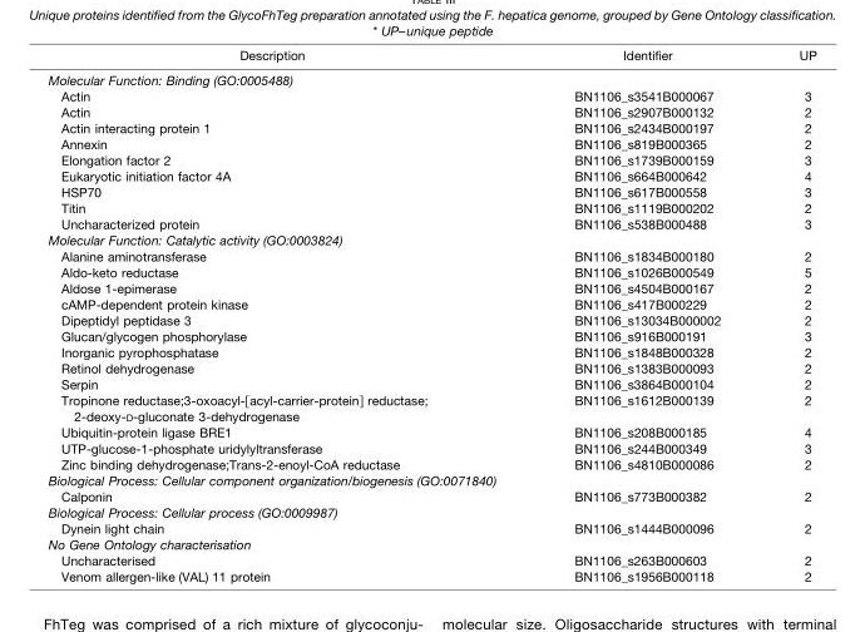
<table><thead><tr><td>Description</td><td>Identifier</td><td>UP</td></tr></thead><tbody><tr><td colspan="3">Molecular Function: Binding (GO:0005488)</td></tr><tr><td>Actin</td><td>BN1106_s3541B000067</td><td>3</td></tr><tr><td>Actin</td><td>BN1106_s2907B000132</td><td>2</td></tr><tr><td>Actin interacting protein 1</td><td>BN1106_s2434B000197</td><td>2</td></tr><tr><td>Annexin</td><td>BN1106_s819B000365</td><td>2</td></tr><tr><td>Elongation factor 2</td><td>BN1106_s1739B000159</td><td>3</td></tr><tr><td>Eukaryotic initiation factor 4A</td><td>BN1106_s664B000642</td><td>4</td></tr><tr><td>HSP70</td><td>BN1106_s617B000558</td><td>3</td></tr><tr><td>Titin</td><td>BN1106_s1119B000202</td><td>2</td></tr><tr><td>Uncharacterized protein</td><td>BN1106_s538B000488</td><td>3</td></tr><tr><td colspan="3">Molecular Function: Catalytic activity (GO:0003824)</td></tr><tr><td>Alanine aminotransferase</td><td>BN1106_s1834B000180</td><td>2</td></tr><tr><td>Aldo-keto reductase</td><td>BN1106_s1026B000549</td><td>5</td></tr><tr><td>Aldose 1-epimerase</td><td>BN1106_s4504B000167</td><td>2</td></tr><tr><td>cAMP-dependent protein kinase</td><td>BN1106_s417B000229</td><td>2</td></tr><tr><td>Dipeptidyl peptidase 3</td><td>BN1106_s13034B000002</td><td>2</td></tr><tr><td>Glucan/glycogen phosphorylase</td><td>BN1106_s916B000191</td><td>3</td></tr><tr><td>Inorganic pyrophosphatase</td><td>BN1106_s1848B000328</td><td>2</td></tr><tr><td>Retinol dehydrogenase</td><td>BN1106_s1383B000093</td><td>2</td></tr><tr><td>Serpin</td><td>BN1106_s3864B000104</td><td>2</td></tr><tr><td>Tropinone reductase;3-oxoacyl-[acyl-carrier-protein] reductase; 2-deoxy-D-gluconate 3-dehydrogenase</td><td>BN1106_s1612B000139</td><td>2</td></tr><tr><td>Ubiquitin-protein ligase BRE1</td><td>BN1106_s208B000185</td><td>4</td></tr><tr><td>UTP-glucose-1-phosphate uridylyltransferase</td><td>BN1106_s244B000349</td><td>3</td></tr><tr><td>Zinc binding dehydrogenase;Trans-2-enoyl-CoA reductase</td><td>BN1106_s4810B000086</td><td>2</td></tr><tr><td colspan="3">Biological Process: Cellular component organization/biogenesis (GO:0071840)</td></tr><tr><td>Calponin</td><td>BN1106_s773B000382</td><td>2</td></tr><tr><td colspan="3">Biological Process: Cellular process (GO:0009987)</td></tr><tr><td>Dynein light chain</td><td>BN1106_s1444B000096</td><td>2</td></tr><tr><td colspan="3">No Gene Ontology characterisation</td></tr><tr><td>Uncharacterised</td><td>BN1106_s263B000603</td><td>2</td></tr><tr><td>Venom allergen-like (VAL) 11 protein</td><td>BN1106_s1956B000118</td><td>2</td></tr></tbody></table>